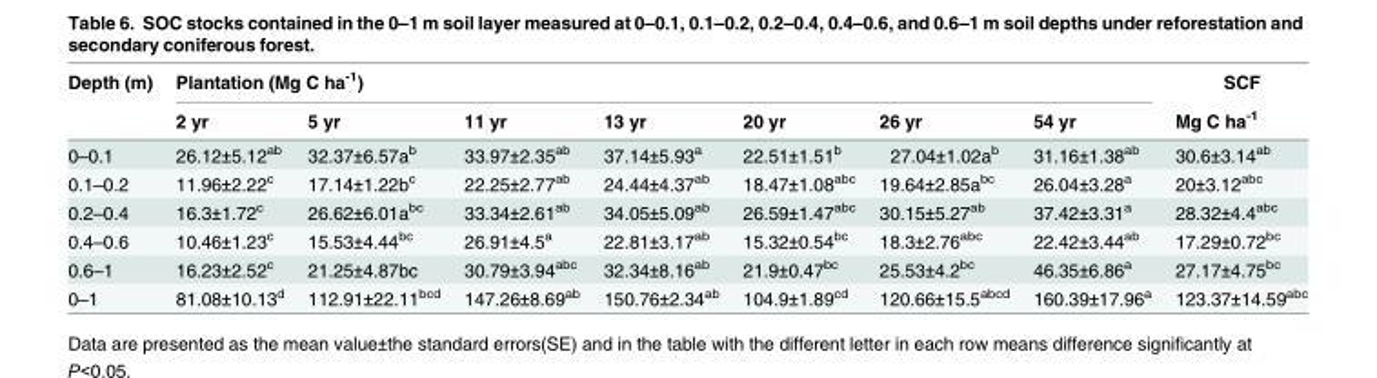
<table><thead><tr><td rowspan="2">Depth (m)</td><td colspan="7">Plantation (Mg C ha<sup>-1</sup>)</td><td rowspan="2">SCF Mg C ha<sup>-1</sup></td></tr><tr><td>2 yr</td><td>5 yr</td><td>11 yr</td><td>13 yr</td><td>20 yr</td><td>26 yr</td><td>54 yr</td></tr></thead><tbody><tr><td>0–0.1</td><td>26.12±5.12<sup>ab</sup></td><td>32.37±6.57a<sup>b</sup></td><td>33.97±2.35<sup>ab</sup></td><td>37.14±5.93<sup>a</sup></td><td>22.51±1.51<sup>b</sup></td><td>27.04±1.02a<sup>b</sup></td><td>31.16±1.38<sup>ab</sup></td><td>30.6±3.14<sup>ab</sup></td></tr><tr><td>0.1–0.2</td><td>11.96±2.22<sup>c</sup></td><td>17.14±1.22b<sup>c</sup></td><td>22.25±2.77<sup>ab</sup></td><td>24.44±4.37<sup>ab</sup></td><td>18.47±1.08<sup>abc</sup></td><td>19.64±2.85a<sup>bc</sup></td><td>26.04±3.28<sup>a</sup></td><td>20±3.12<sup>abc</sup></td></tr><tr><td>0.2–0.4</td><td>16.3±1.72<sup>c</sup></td><td>26.62±6.01a<sup>bc</sup></td><td>33.34±2.61<sup>ab</sup></td><td>34.05±5.09<sup>ab</sup></td><td>26.59±1.47<sup>abc</sup></td><td>30.15±5.27<sup>ab</sup></td><td>37.42±3.31<sup>a</sup></td><td>28.32±4.4<sup>abc</sup></td></tr><tr><td>0.4–0.6</td><td>10.46±1.23<sup>c</sup></td><td>15.53±4.44<sup>bc</sup></td><td>26.91±4.5<sup>a</sup></td><td>22.81±3.17<sup>ab</sup></td><td>15.32±0.54<sup>bc</sup></td><td>18.3±2.76<sup>abc</sup></td><td>22.42±3.44<sup>ab</sup></td><td>17.29±0.72<sup>bc</sup></td></tr><tr><td>0.6–1</td><td>16.23±2.52<sup>c</sup></td><td>21.25±4.87bc</td><td>30.79±3.94<sup>abc</sup></td><td>32.34±8.16<sup>ab</sup></td><td>21.9±0.47<sup>bc</sup></td><td>25.53±4.2<sup>bc</sup></td><td>46.35±6.86<sup>a</sup></td><td>27.17±4.75<sup>bc</sup></td></tr><tr><td>0–1</td><td>81.08±10.13<sup>d</sup></td><td>112.91±22.11<sup>bcd</sup></td><td>147.26±8.69<sup>ab</sup></td><td>150.76±2.34<sup>ab</sup></td><td>104.9±1.89<sup>cd</sup></td><td>120.66±15.5<sup>abcd</sup></td><td>160.39±17.96<sup>a</sup></td><td>123.37±14.59<sup>abc</sup></td></tr></tbody></table>